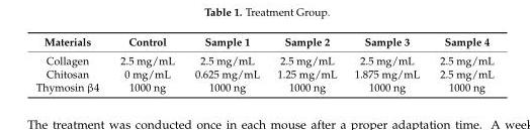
<table><thead><tr><td>Materials</td><td>Control</td><td>Sample 1</td><td>Sample 2</td><td>Sample 3</td><td>Sample 4</td></tr></thead><tbody><tr><td>Collagen</td><td>2.5 mg/mL</td><td>2.5 mg/mL</td><td>2.5 mg/mL</td><td>2.5 mg/mL</td><td>2.5 mg/mL</td></tr><tr><td>Chitosan</td><td>0 mg/mL</td><td>0.625 mg/mL</td><td>1.25 mg/mL</td><td>1.875 mg/mL</td><td>2.5 mg/mL</td></tr><tr><td>Thymosin β4</td><td>1000 ng</td><td>1000 ng</td><td>1000 ng</td><td>1000 ng</td><td>1000 ng</td></tr></tbody></table>